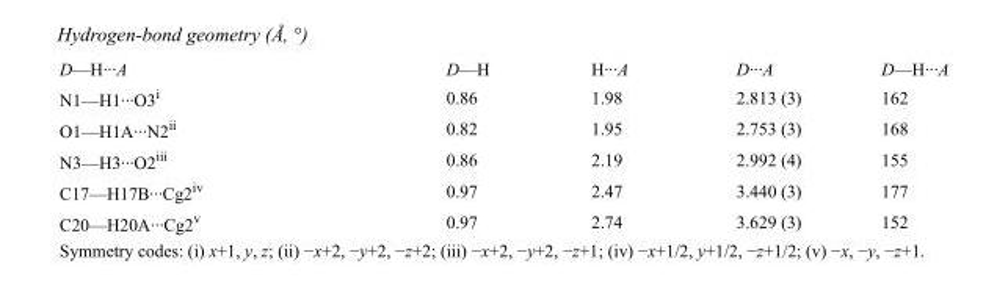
<table><tbody><tr><td>D—H···A</td><td>D—H</td><td>H···A</td><td>D···A</td><td>D—H···A</td></tr><tr><td>N1—H1···O3<sup>i</sup></td><td>0.86</td><td>1.98</td><td>2.813 (3)</td><td>162</td></tr><tr><td>O1—H1A···N2<sup>ii</sup></td><td>0.82</td><td>1.95</td><td>2.753 (3)</td><td>168</td></tr><tr><td>N3—H3···O2<sup>iii</sup></td><td>0.86</td><td>2.19</td><td>2.992 (4)</td><td>155</td></tr><tr><td>C17—H17B···Cg2<sup>iv</sup></td><td>0.97</td><td>2.47</td><td>3.440 (3)</td><td>177</td></tr><tr><td>C20—H20A···Cg2<sup>v</sup></td><td>0.97</td><td>2.74</td><td>3.629 (3)</td><td>152</td></tr></tbody></table>